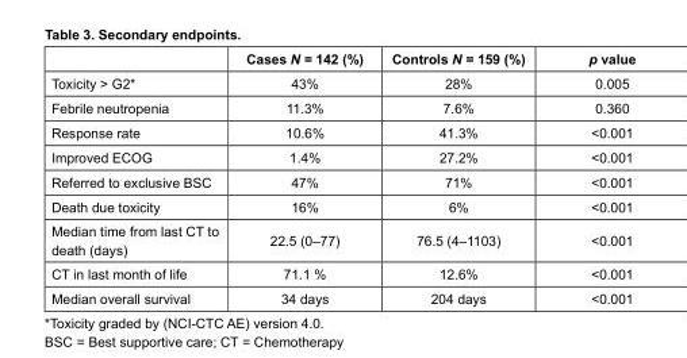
<table><thead><tr><td></td><td>Cases N = 142 (%)</td><td>Controls N = 159 (%)</td><td>p value</td></tr></thead><tbody><tr><td>Toxicity &gt; G2*</td><td>43%</td><td>28%</td><td>0.005</td></tr><tr><td>Febrile neutropenia</td><td>11.3%</td><td>7.6%</td><td>0.360</td></tr><tr><td>Response rate</td><td>10.6%</td><td>41.3%</td><td>&lt;0.001</td></tr><tr><td>Improved ECOG</td><td>1.4%</td><td>27.2%</td><td>&lt;0.001</td></tr><tr><td>Referred to exclusive BSC</td><td>47%</td><td>71%</td><td>&lt;0.001</td></tr><tr><td>Death due toxicity</td><td>16%</td><td>6%</td><td>&lt;0.001</td></tr><tr><td>Median time from last CT to death (days)</td><td>22.5 (0–77)</td><td>76.5 (4–1103)</td><td>&lt;0.001</td></tr><tr><td>CT in last month of life</td><td>71.1 %</td><td>12.6%</td><td>&lt;0.001</td></tr><tr><td>Median overall survival</td><td>34 days</td><td>204 days</td><td>&lt;0.001</td></tr></tbody></table>